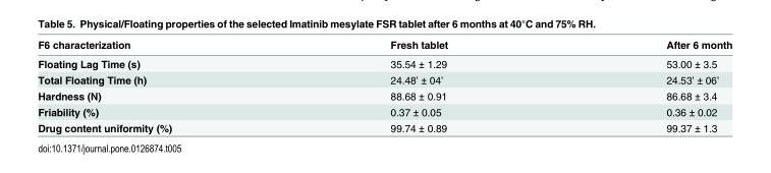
<table><thead><tr><td>F6 characterization</td><td>Fresh tablet</td><td>After 6 month</td></tr></thead><tbody><tr><td>Floating Lag Time (s)</td><td>35.54 ± 1.29</td><td>53.00 ± 3.5</td></tr><tr><td>Total Floating Time (h)</td><td>24.48’ ± 04’</td><td>24.53’ ± 06’</td></tr><tr><td>Hardness (N)</td><td>88.68 ± 0.91</td><td>86.68 ± 3.4</td></tr><tr><td>Friability (%)</td><td>0.37 ± 0.05</td><td>0.36 ± 0.02</td></tr><tr><td>Drug content uniformity (%)</td><td>99.74 ± 0.89</td><td>99.37 ± 1.3</td></tr></tbody></table>